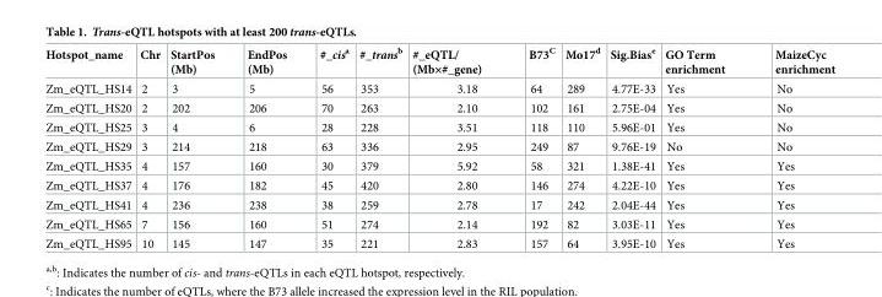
<table><thead><tr><td>Hotspot_name</td><td>Chr</td><td>StartPos (Mb)</td><td>EndPos (Mb)</td><td>#_cis<sup>a</sup></td><td>#_trans<sup>b</sup></td><td>#_eQTL/ (Mb×#_gene)</td><td>B73<sup>C</sup></td><td>Mo17<sup>d</sup></td><td>Sig.Bias<sup>e</sup></td><td>GO Term enrichment</td><td>MaizeCyc enrichment</td></tr></thead><tbody><tr><td>Zm_eQTL_HS14</td><td>2</td><td>3</td><td>5</td><td>56</td><td>353</td><td>3.18</td><td>64</td><td>289</td><td>4.77E-33</td><td>Yes</td><td>No</td></tr><tr><td>Zm_eQTL_HS20</td><td>2</td><td>202</td><td>206</td><td>70</td><td>263</td><td>2.10</td><td>102</td><td>161</td><td>2.75E-04</td><td>Yes</td><td>No</td></tr><tr><td>Zm_eQTL_HS25</td><td>3</td><td>4</td><td>6</td><td>28</td><td>228</td><td>3.51</td><td>118</td><td>110</td><td>5.96E-01</td><td>Yes</td><td>No</td></tr><tr><td>Zm_eQTL_HS29</td><td>3</td><td>214</td><td>218</td><td>63</td><td>336</td><td>2.95</td><td>249</td><td>87</td><td>9.76E-19</td><td>No</td><td>No</td></tr><tr><td>Zm_eQTL_HS35</td><td>4</td><td>157</td><td>160</td><td>30</td><td>379</td><td>5.92</td><td>58</td><td>321</td><td>1.38E-41</td><td>Yes</td><td>Yes</td></tr><tr><td>Zm_eQTL_HS37</td><td>4</td><td>176</td><td>182</td><td>45</td><td>420</td><td>2.80</td><td>146</td><td>274</td><td>4.22E-10</td><td>Yes</td><td>Yes</td></tr><tr><td>Zm_eQTL_HS41</td><td>4</td><td>236</td><td>238</td><td>38</td><td>259</td><td>2.78</td><td>17</td><td>242</td><td>2.04E-44</td><td>Yes</td><td>Yes</td></tr><tr><td>Zm_eQTL_HS65</td><td>7</td><td>156</td><td>160</td><td>51</td><td>274</td><td>2.14</td><td>192</td><td>82</td><td>3.03E-11</td><td>Yes</td><td>Yes</td></tr><tr><td>Zm_eQTL_HS95</td><td>10</td><td>145</td><td>147</td><td>35</td><td>221</td><td>2.83</td><td>157</td><td>64</td><td>3.95E-10</td><td>Yes</td><td>Yes</td></tr></tbody></table>